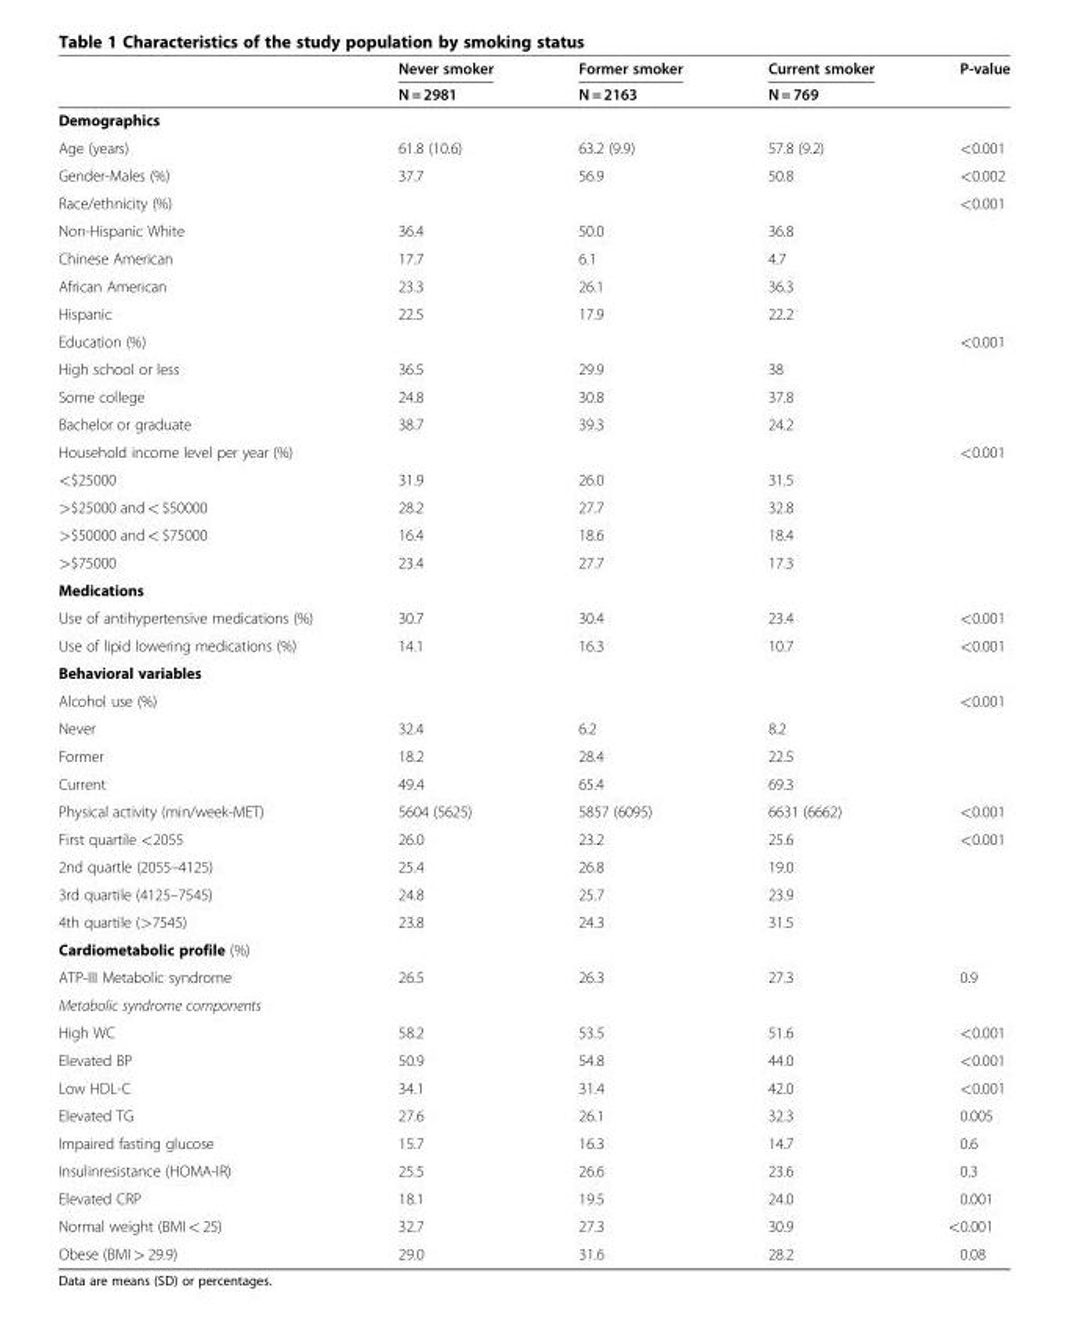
<table><thead><tr><td rowspan="2"></td><td rowspan="2">Never smoker N = 2981</td><td rowspan="2">Former smoker N = 2163</td><td rowspan="2">Current smoker N = 769</td><td rowspan="2">P-value</td></tr><tr></tr></thead><tbody><tr><td colspan="5">Demographics</td></tr><tr><td>Age (years)</td><td>61.8 (10.6)</td><td>63.2 (9.9)</td><td>57.8 (9.2)</td><td>&lt;0.001</td></tr><tr><td>Gender-Males (%)</td><td>37.7</td><td>56.9</td><td>50.8</td><td>&lt;0.002</td></tr><tr><td>Race/ethnicity (%)</td><td></td><td></td><td></td><td>&lt;0.001</td></tr><tr><td>Non-Hispanic White</td><td>36.4</td><td>50.0</td><td>36.8</td><td></td></tr><tr><td>Chinese American</td><td>17.7</td><td>6.1</td><td>4.7</td><td></td></tr><tr><td>African American</td><td>23.3</td><td>26.1</td><td>36.3</td><td></td></tr><tr><td>Hispanic</td><td>22.5</td><td>17.9</td><td>22.2</td><td></td></tr><tr><td>Education (%)</td><td></td><td></td><td></td><td>&lt;0.001</td></tr><tr><td>High school or less</td><td>36.5</td><td>29.9</td><td>38</td><td></td></tr><tr><td>Some college</td><td>24.8</td><td>30.8</td><td>37.8</td><td></td></tr><tr><td>Bachelor or graduate</td><td>38.7</td><td>39.3</td><td>24.2</td><td></td></tr><tr><td>Household income level per year (%)</td><td></td><td></td><td></td><td>&lt;0.001</td></tr><tr><td>&lt;$25000</td><td>31.9</td><td>26.0</td><td>31.5</td><td></td></tr><tr><td>&gt;$25000 and &lt; $50000</td><td>28.2</td><td>27.7</td><td>32.8</td><td></td></tr><tr><td>&gt;$50000 and &lt; $75000</td><td>16.4</td><td>18.6</td><td>18.4</td><td></td></tr><tr><td>&gt;$75000</td><td>23.4</td><td>27.7</td><td>17.3</td><td></td></tr><tr><td colspan="5">Medications</td></tr><tr><td>Use of antihypertensive medications (%)</td><td>30.7</td><td>30.4</td><td>23.4</td><td>&lt;0.001</td></tr><tr><td>Use of lipid lowering medications (%)</td><td>14.1</td><td>16.3</td><td>10.7</td><td>&lt;0.001</td></tr><tr><td colspan="5">Behavioral variables</td></tr><tr><td>Alcohol use (%)</td><td></td><td></td><td></td><td>&lt;0.001</td></tr><tr><td>Never</td><td>32.4</td><td>6.2</td><td>8.2</td><td></td></tr><tr><td>Former</td><td>18.2</td><td>28.4</td><td>22.5</td><td></td></tr><tr><td>Current</td><td>49.4</td><td>65.4</td><td>69.3</td><td></td></tr><tr><td>Physical activity (min/week-MET)</td><td>5604 (5625)</td><td>5857 (6095)</td><td>6631 (6662)</td><td>&lt;0.001</td></tr><tr><td>First quartile &lt;2055</td><td>26.0</td><td>23.2</td><td>25.6</td><td>&lt;0.001</td></tr><tr><td>2nd quartle (2055–4125)</td><td>25.4</td><td>26.8</td><td>19.0</td><td></td></tr><tr><td>3rd quartile (4125–7545)</td><td>24.8</td><td>25.7</td><td>23.9</td><td></td></tr><tr><td>4th quartile (&gt;7545)</td><td>23.8</td><td>24.3</td><td>31.5</td><td></td></tr><tr><td colspan="5">Cardiometabolic profile (%)</td></tr><tr><td>ATP-III Metabolic syndrome</td><td>26.5</td><td>26.3</td><td>27.3</td><td>0.9</td></tr><tr><td colspan="5">Metabolic syndrome components</td></tr><tr><td>High WC</td><td>58.2</td><td>53.5</td><td>51.6</td><td>&lt;0.001</td></tr><tr><td>Elevated BP</td><td>50.9</td><td>54.8</td><td>44.0</td><td>&lt;0.001</td></tr><tr><td>Low HDL-C</td><td>34.1</td><td>31.4</td><td>42.0</td><td>&lt;0.001</td></tr><tr><td>Elevated TG</td><td>27.6</td><td>26.1</td><td>32.3</td><td>0.005</td></tr><tr><td>Impaired fasting glucose</td><td>15.7</td><td>16.3</td><td>14.7</td><td>0.6</td></tr><tr><td>Insulinresistance (HOMA-IR)</td><td>25.5</td><td>26.6</td><td>23.6</td><td>0.3</td></tr><tr><td>Elevated CRP</td><td>18.1</td><td>19.5</td><td>24.0</td><td>0.001</td></tr><tr><td>Normal weight (BMI &lt; 25)</td><td>32.7</td><td>27.3</td><td>30.9</td><td>&lt;0.001</td></tr><tr><td>Obese (BMI &gt; 29.9)</td><td>29.0</td><td>31.6</td><td>28.2</td><td>0.08</td></tr></tbody></table>